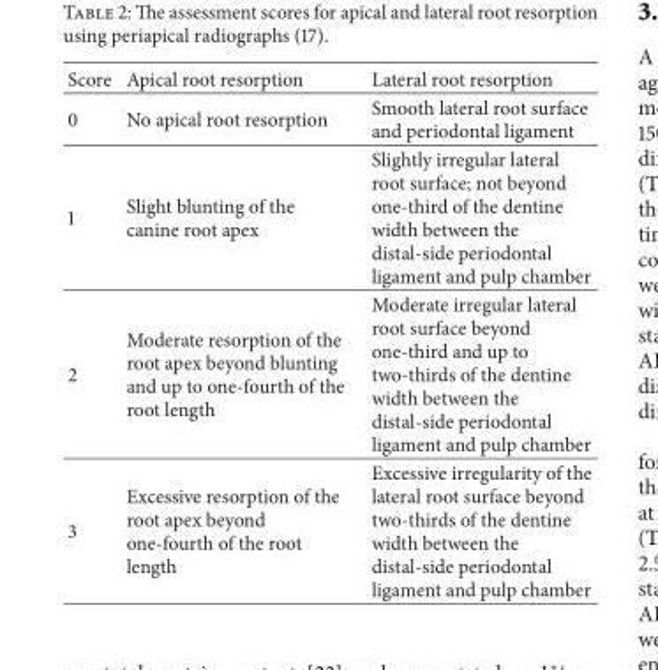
<table><thead><tr><td>Score</td><td>Apical root resorption</td><td>Lateral root resorption</td></tr></thead><tbody><tr><td>0</td><td>No apical root resorption</td><td>Smooth lateral root surface and periodontal ligament</td></tr><tr><td>1</td><td>Slight blunting of the canine root apex</td><td>Slightly irregular lateral root surface; not beyond one-third of the dentine width between the distal-side periodontal ligament and pulp chamber</td></tr><tr><td>2</td><td>Moderate resorption of the root apex beyond blunting and up to one-fourth of the root length</td><td>Moderate irregular lateral root surface beyond one-third and up to two-thirds of the dentine width between the distal-side periodontal ligament and pulp chamber</td></tr><tr><td>3</td><td>Excessive resorption of the root apex beyond one-fourth of the root length</td><td>Excessive irregularity of the lateral root surface beyond two-thirds of the dentine width between the distal-side periodontal ligament and pulp chamber</td></tr></tbody></table>